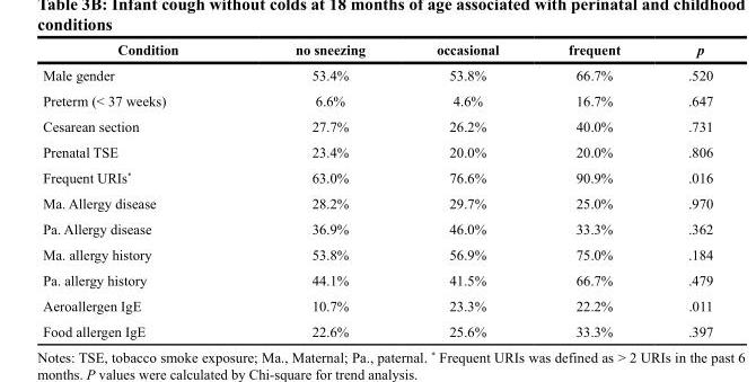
<table><thead><tr><td>Condition</td><td>no sneezing</td><td>occasional</td><td>frequent</td><td>p</td></tr></thead><tbody><tr><td>Male gender</td><td>53.4%</td><td>53.8%</td><td>66.7%</td><td>.520</td></tr><tr><td>Preterm (&lt; 37 weeks)</td><td>6.6%</td><td>4.6%</td><td>16.7%</td><td>.647</td></tr><tr><td>Cesarean section</td><td>27.7%</td><td>26.2%</td><td>40.0%</td><td>.731</td></tr><tr><td>Prenatal TSE</td><td>23.4%</td><td>20.0%</td><td>20.0%</td><td>.806</td></tr><tr><td>Frequent URIs*</td><td>63.0%</td><td>76.6%</td><td>90.9%</td><td>.016</td></tr><tr><td>Ma. Allergy disease</td><td>28.2%</td><td>29.7%</td><td>25.0%</td><td>.970</td></tr><tr><td>Pa. Allergy disease</td><td>36.9%</td><td>46.0%</td><td>33.3%</td><td>.362</td></tr><tr><td>Ma. allergy history</td><td>53.8%</td><td>56.9%</td><td>75.0%</td><td>.184</td></tr><tr><td>Pa. allergy history</td><td>44.1%</td><td>41.5%</td><td>66.7%</td><td>.479</td></tr><tr><td>Aeroallergen IgE</td><td>10.7%</td><td>23.3%</td><td>22.2%</td><td>.011</td></tr><tr><td>Food allergen IgE</td><td>22.6%</td><td>25.6%</td><td>33.3%</td><td>.397</td></tr></tbody></table>